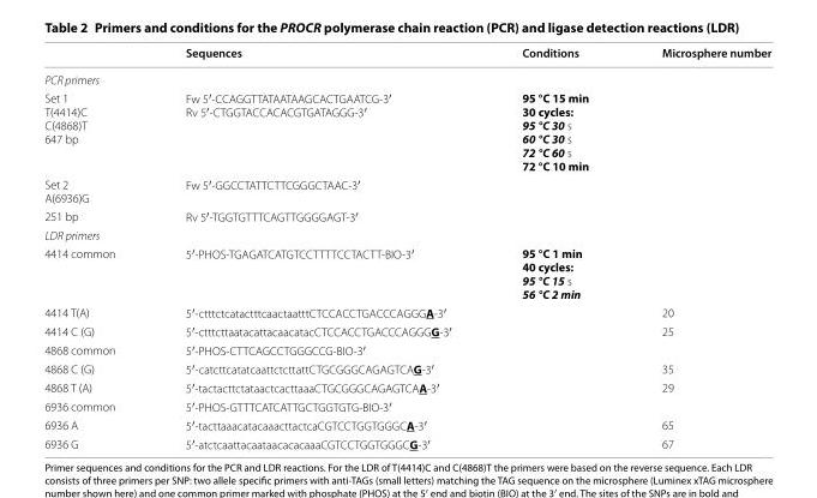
<table><thead><tr><td></td><td>Sequences</td><td>Conditions</td><td>Microsphere number</td></tr></thead><tbody><tr><td colspan="4">PCR primers</td></tr><tr><td>Set 1 T(4414)C C(4868)T 647 bp</td><td>Fw 5′-CCAGGTTATAATAAGCACTGAATCG-3′ Rv 5′-CTGGTACCACACGTGATAGGG-3′</td><td>95 °C 15 min 30 cycles: 95 °C 30 s 60 °C 30 s 72 °C 60 s 72 °C 10 min</td><td></td></tr><tr><td>Set 2 A(6936)G</td><td>Fw 5′-GGCCTATTCTTCGGGCTAAC-3′</td><td></td><td></td></tr><tr><td>251 bp</td><td>Rv 5′-TGGTGTTTCAGTTGGGGAGT-3′</td><td></td><td></td></tr><tr><td colspan="4">LDR primers</td></tr><tr><td>4414 common</td><td>5′-PHOS-TGAGATCATGTCCTTTTCCTACTT-BIO-3′</td><td>95 °C 1 min 40 cycles: 95 °C 15 s 56 °C 2 min</td><td></td></tr><tr><td>4414 T(A)</td><td>5′-ctttctcatactttcaactaatttCTCCACCTGACCCAGGGA-3′</td><td></td><td>20</td></tr><tr><td>4414 C (G)</td><td>5′-ctttcttaatacattacaacatacCTCCACCTGACCCAGGGG-3′</td><td></td><td>25</td></tr><tr><td>4868 common</td><td>5′-PHOS-CTTCAGCCTGGGCCG-BIO-3′</td><td></td><td></td></tr><tr><td>4868 C (G)</td><td>5′-catcttcatatcaattctcttattCTGCGGGCAGAGTCAG-3′</td><td></td><td>35</td></tr><tr><td>4868 T (A)</td><td>5′-tactacttctataactcacttaaaCTGCGGGCAGAGTCAA-3′</td><td></td><td>29</td></tr><tr><td>6936 common</td><td>5′-PHOS-GTTTCATCATTGCTGGTGTG-BIO-3′</td><td></td><td></td></tr><tr><td>6936 A</td><td>5′-tacttaaacatacaaacttactcaCGTCCTGGTGGGCA-3′</td><td></td><td>65</td></tr><tr><td>6936 G</td><td>5′-atctcaattacaataacacacaaaCGTCCTGGTGGGCG-3′</td><td></td><td>67</td></tr></tbody></table>